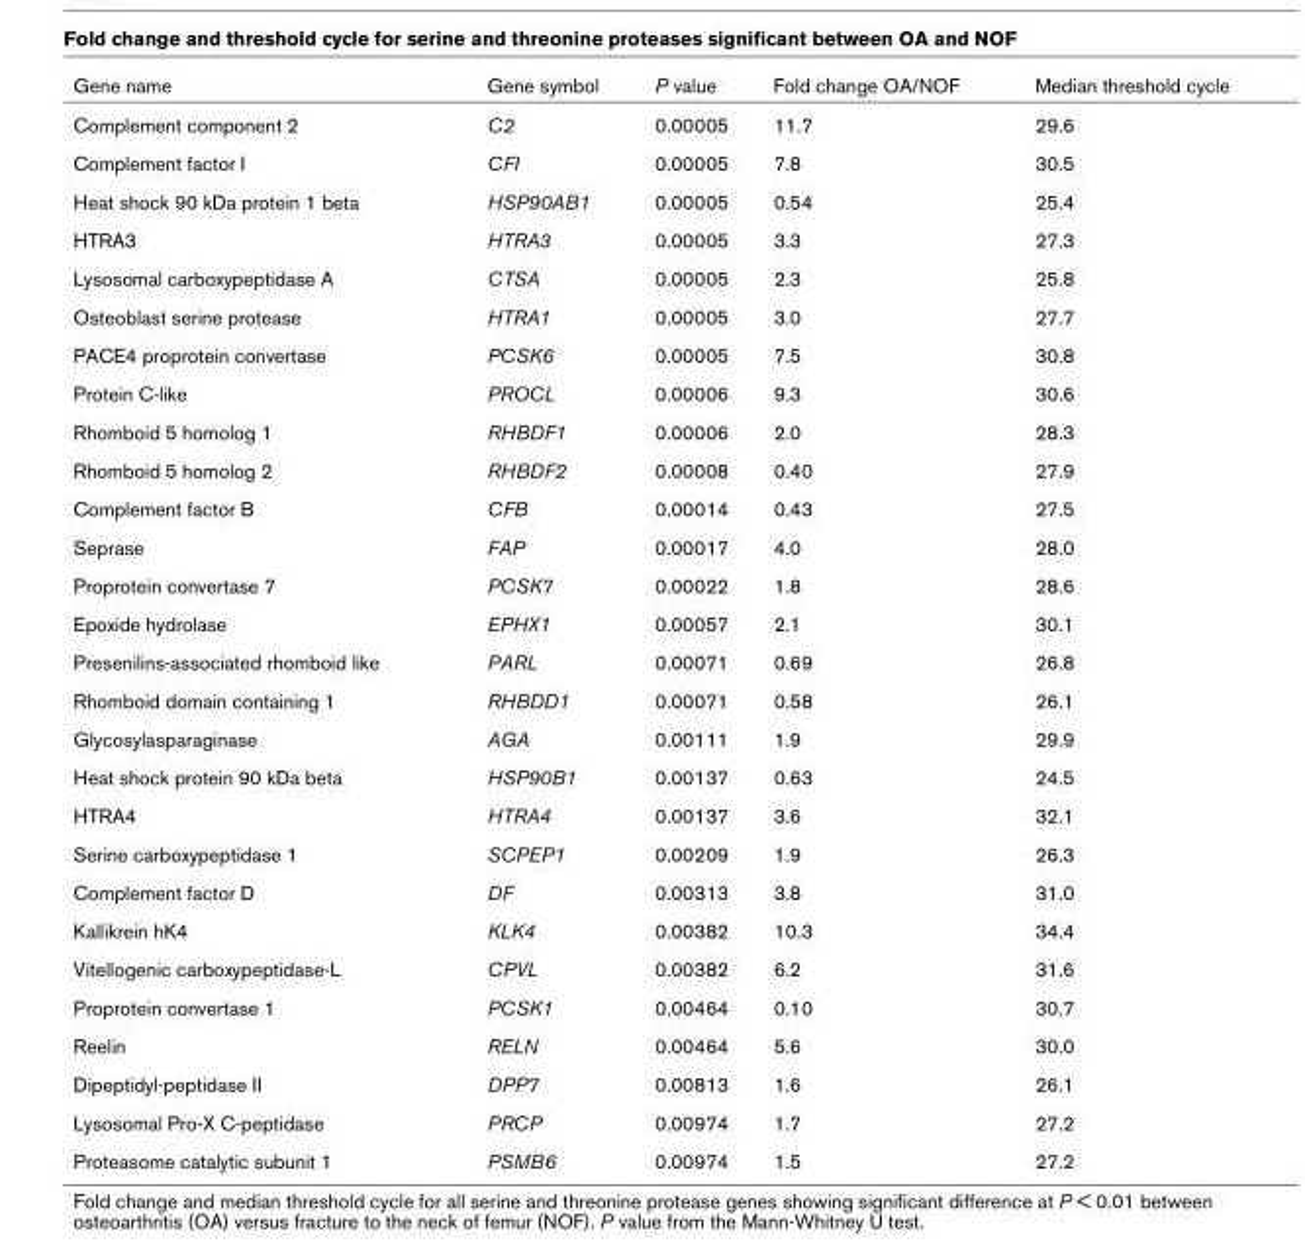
<table><thead><tr><td>Gene name</td><td>Gene symbol</td><td>P value</td><td>Fold change OA/NOF</td><td>Median threshold cycle</td></tr></thead><tbody><tr><td>Complement component 2</td><td>C2</td><td>0.00005</td><td>11.7</td><td>29.6</td></tr><tr><td>Complement factor I</td><td>CFI</td><td>0.00005</td><td>7.8</td><td>30.5</td></tr><tr><td>Heat shock 90 kDa protein 1 beta</td><td>HSP90AB1</td><td>0.00005</td><td>0.54</td><td>25.4</td></tr><tr><td>HTRA3</td><td>HTRA3</td><td>0.00005</td><td>3.3</td><td>27.3</td></tr><tr><td>Lysosomal carboxypeptidase A</td><td>CTSA</td><td>0.00005</td><td>2.3</td><td>25.8</td></tr><tr><td>Osteoblast serine protease</td><td>HTRA1</td><td>0.00005</td><td>3.0</td><td>27.7</td></tr><tr><td>PACE4 proprotein convertase</td><td>PCSK6</td><td>0.00005</td><td>7.5</td><td>30.8</td></tr><tr><td>Protein C-like</td><td>PROCL</td><td>0.00006</td><td>9.3</td><td>30.6</td></tr><tr><td>Rhomboid 5 homolog 1</td><td>RHBDF1</td><td>0.00006</td><td>2.0</td><td>28.3</td></tr><tr><td>Rhomboid 5 homolog 2</td><td>RHBDF2</td><td>0.00008</td><td>0.40</td><td>27.9</td></tr><tr><td>Complement factor B</td><td>CFB</td><td>0.00014</td><td>0.43</td><td>27.5</td></tr><tr><td>Seprase</td><td>FAP</td><td>0.00017</td><td>4.0</td><td>28.0</td></tr><tr><td>Proprotein convertase 7</td><td>PCSK7</td><td>0.00022</td><td>1.8</td><td>28.6</td></tr><tr><td>Epoxide hydrolase</td><td>EPHX1</td><td>0.00057</td><td>2.1</td><td>30.1</td></tr><tr><td>Presenilins-associated rhomboid like</td><td>PARL</td><td>0.00071</td><td>0.69</td><td>26.8</td></tr><tr><td>Rhomboid domain containing 1</td><td>RHBDD1</td><td>0.00071</td><td>0.58</td><td>26.1</td></tr><tr><td>Glycosylasparaginase</td><td>AGA</td><td>0.00111</td><td>1.9</td><td>29.9</td></tr><tr><td>Heat shock protein 90 kDa beta</td><td>HSP90B1</td><td>0.00137</td><td>0.63</td><td>24.5</td></tr><tr><td>HTRA4</td><td>HTRA4</td><td>0.00137</td><td>3.6</td><td>32.1</td></tr><tr><td>Serine carboxypeptidase 1</td><td>SCPEP1</td><td>0.00209</td><td>1.9</td><td>26.3</td></tr><tr><td>Complement factor D</td><td>DF</td><td>0.00313</td><td>3.8</td><td>31.0</td></tr><tr><td>Kallikrein hK4</td><td>KLK4</td><td>0.00382</td><td>10.3</td><td>34.4</td></tr><tr><td>Vitellogenic carboxypeptidase-L</td><td>CPVL</td><td>0.00382</td><td>6.2</td><td>31.6</td></tr><tr><td>Proprotein convertase 1</td><td>PCSK1</td><td>0.00464</td><td>0.10</td><td>30.7</td></tr><tr><td>Reelin</td><td>RELN</td><td>0.00464</td><td>5.6</td><td>30.0</td></tr><tr><td>Dipeptidyl-peptidase II</td><td>DPP7</td><td>0.00813</td><td>1.6</td><td>26.1</td></tr><tr><td>Lysosomal Pro-X C-peptidase</td><td>PRCP</td><td>0.00974</td><td>1.7</td><td>27.2</td></tr><tr><td>Proteasome catalytic subunit 1</td><td>PSMB6</td><td>0.00974</td><td>1.5</td><td>27.2</td></tr></tbody></table>